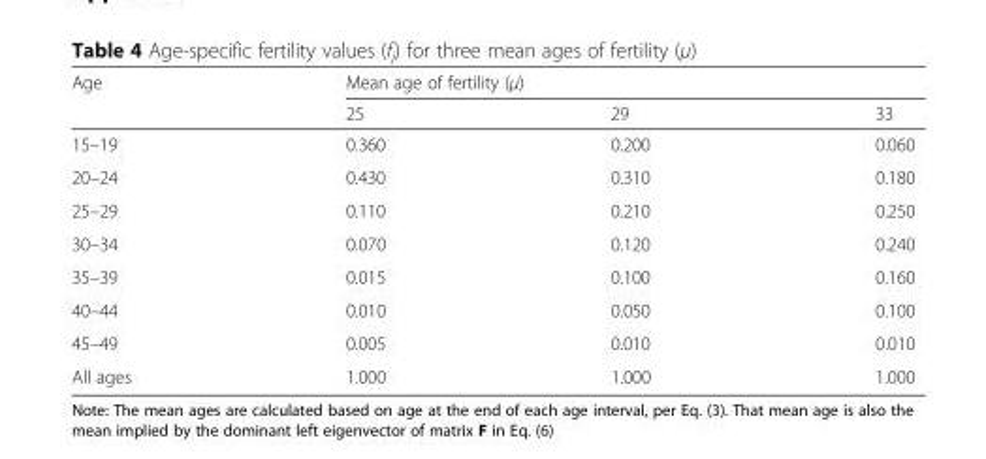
<table><thead><tr><td rowspan="2">Age</td><td colspan="3">Mean age of fertility (μ)</td></tr><tr><td>25</td><td>29</td><td>33</td></tr></thead><tbody><tr><td>15–19</td><td>0.360</td><td>0.200</td><td>0.060</td></tr><tr><td>20–24</td><td>0.430</td><td>0.310</td><td>0.180</td></tr><tr><td>25–29</td><td>0.110</td><td>0.210</td><td>0.250</td></tr><tr><td>30–34</td><td>0.070</td><td>0.120</td><td>0.240</td></tr><tr><td>35–39</td><td>0.015</td><td>0.100</td><td>0.160</td></tr><tr><td>40–44</td><td>0.010</td><td>0.050</td><td>0.100</td></tr><tr><td>45–49</td><td>0.005</td><td>0.010</td><td>0.010</td></tr><tr><td>All ages</td><td>1.000</td><td>1.000</td><td>1.000</td></tr></tbody></table>